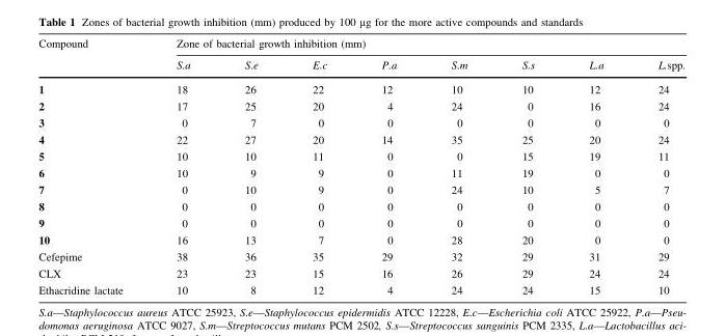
<table><thead><tr><td rowspan="2">Compound</td><td colspan="8">Zone of bacterial growth inhibition (mm)</td></tr><tr><td>S.a</td><td>S.e</td><td>E.c</td><td>P.a</td><td>S.m</td><td>S.s</td><td>L.a</td><td>L.spp.</td></tr></thead><tbody><tr><td>1</td><td>18</td><td>26</td><td>22</td><td>12</td><td>10</td><td>10</td><td>12</td><td>24</td></tr><tr><td>2</td><td>17</td><td>25</td><td>20</td><td>4</td><td>24</td><td>0</td><td>16</td><td>24</td></tr><tr><td>3</td><td>0</td><td>7</td><td>0</td><td>0</td><td>0</td><td>0</td><td>0</td><td>0</td></tr><tr><td>4</td><td>22</td><td>27</td><td>20</td><td>14</td><td>35</td><td>25</td><td>20</td><td>24</td></tr><tr><td>5</td><td>10</td><td>10</td><td>11</td><td>0</td><td>0</td><td>15</td><td>19</td><td>11</td></tr><tr><td>6</td><td>10</td><td>9</td><td>9</td><td>0</td><td>11</td><td>19</td><td>0</td><td>0</td></tr><tr><td>7</td><td>0</td><td>10</td><td>9</td><td>0</td><td>24</td><td>10</td><td>5</td><td>7</td></tr><tr><td>8</td><td>0</td><td>0</td><td>0</td><td>0</td><td>0</td><td>0</td><td>0</td><td>0</td></tr><tr><td>9</td><td>0</td><td>0</td><td>0</td><td>0</td><td>0</td><td>0</td><td>0</td><td>0</td></tr><tr><td>10</td><td>16</td><td>13</td><td>7</td><td>0</td><td>28</td><td>20</td><td>0</td><td>0</td></tr><tr><td>Cefepime</td><td>38</td><td>36</td><td>35</td><td>29</td><td>32</td><td>29</td><td>31</td><td>29</td></tr><tr><td>CLX</td><td>23</td><td>23</td><td>15</td><td>16</td><td>26</td><td>29</td><td>24</td><td>24</td></tr><tr><td>Ethacridine lactate</td><td>10</td><td>8</td><td>12</td><td>4</td><td>24</td><td>24</td><td>15</td><td>10</td></tr></tbody></table>